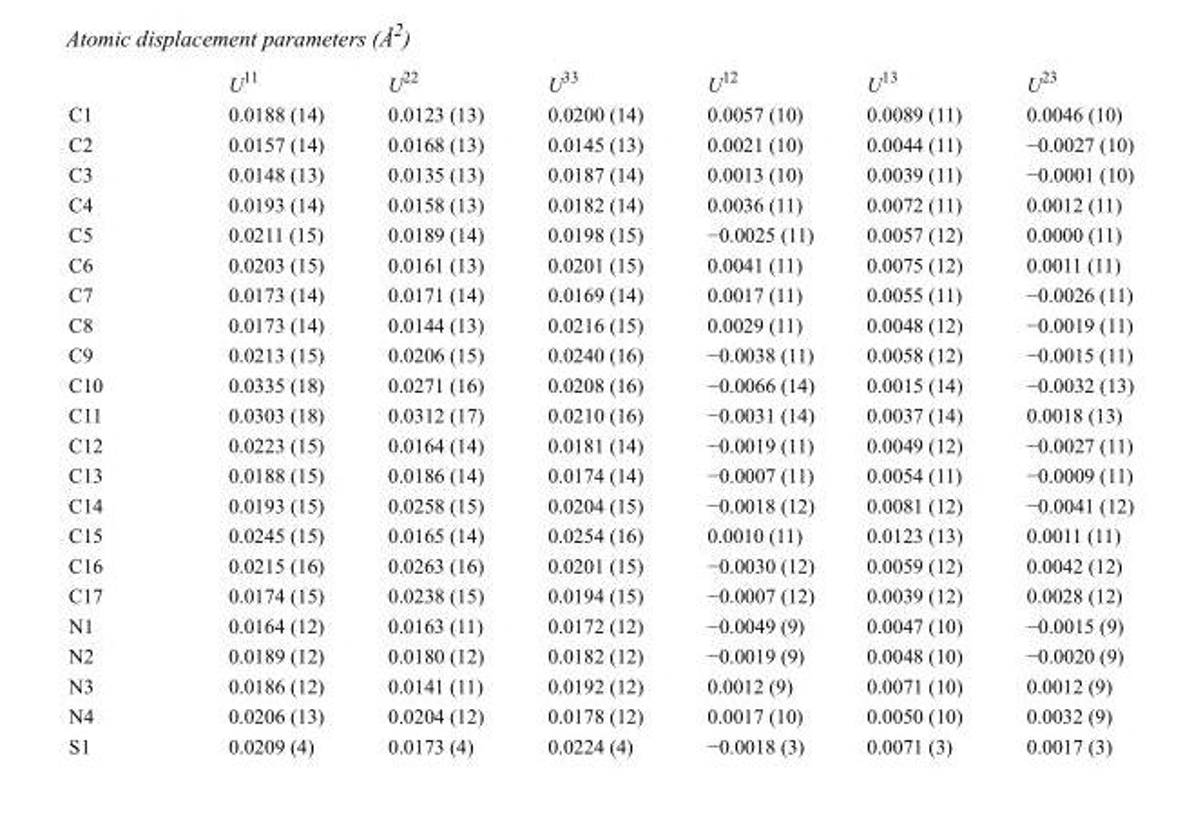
<table><thead><tr><td></td><td>U<sup>11</sup></td><td>U<sup>22</sup></td><td>U<sup>33</sup></td><td>U<sup>12</sup></td><td>U<sup>13</sup></td><td>U<sup>23</sup></td></tr></thead><tbody><tr><td>C1</td><td>0.0188 (14)</td><td>0.0123 (13)</td><td>0.0200 (14)</td><td>0.0057 (10)</td><td>0.0089 (11)</td><td>0.0046 (10)</td></tr><tr><td>C2</td><td>0.0157 (14)</td><td>0.0168 (13)</td><td>0.0145 (13)</td><td>0.0021 (10)</td><td>0.0044 (11)</td><td>−0.0027 (10)</td></tr><tr><td>C3</td><td>0.0148 (13)</td><td>0.0135 (13)</td><td>0.0187 (14)</td><td>0.0013 (10)</td><td>0.0039 (11)</td><td>−0.0001 (10)</td></tr><tr><td>C4</td><td>0.0193 (14)</td><td>0.0158 (13)</td><td>0.0182 (14)</td><td>0.0036 (11)</td><td>0.0072 (11)</td><td>0.0012 (11)</td></tr><tr><td>C5</td><td>0.0211 (15)</td><td>0.0189 (14)</td><td>0.0198 (15)</td><td>−0.0025 (11)</td><td>0.0057 (12)</td><td>0.0000 (11)</td></tr><tr><td>C6</td><td>0.0203 (15)</td><td>0.0161 (13)</td><td>0.0201 (15)</td><td>0.0041 (11)</td><td>0.0075 (12)</td><td>0.0011 (11)</td></tr><tr><td>C7</td><td>0.0173 (14)</td><td>0.0171 (14)</td><td>0.0169 (14)</td><td>0.0017 (11)</td><td>0.0055 (11)</td><td>−0.0026 (11)</td></tr><tr><td>C8</td><td>0.0173 (14)</td><td>0.0144 (13)</td><td>0.0216 (15)</td><td>0.0029 (11)</td><td>0.0048 (12)</td><td>−0.0019 (11)</td></tr><tr><td>C9</td><td>0.0213 (15)</td><td>0.0206 (15)</td><td>0.0240 (16)</td><td>−0.0038 (11)</td><td>0.0058 (12)</td><td>−0.0015 (11)</td></tr><tr><td>C10</td><td>0.0335 (18)</td><td>0.0271 (16)</td><td>0.0208 (16)</td><td>−0.0066 (14)</td><td>0.0015 (14)</td><td>−0.0032 (13)</td></tr><tr><td>C11</td><td>0.0303 (18)</td><td>0.0312 (17)</td><td>0.0210 (16)</td><td>−0.0031 (14)</td><td>0.0037 (14)</td><td>0.0018 (13)</td></tr><tr><td>C12</td><td>0.0223 (15)</td><td>0.0164 (14)</td><td>0.0181 (14)</td><td>−0.0019 (11)</td><td>0.0049 (12)</td><td>−0.0027 (11)</td></tr><tr><td>C13</td><td>0.0188 (15)</td><td>0.0186 (14)</td><td>0.0174 (14)</td><td>−0.0007 (11)</td><td>0.0054 (11)</td><td>−0.0009 (11)</td></tr><tr><td>C14</td><td>0.0193 (15)</td><td>0.0258 (15)</td><td>0.0204 (15)</td><td>−0.0018 (12)</td><td>0.0081 (12)</td><td>−0.0041 (12)</td></tr><tr><td>C15</td><td>0.0245 (15)</td><td>0.0165 (14)</td><td>0.0254 (16)</td><td>0.0010 (11)</td><td>0.0123 (13)</td><td>0.0011 (11)</td></tr><tr><td>C16</td><td>0.0215 (16)</td><td>0.0263 (16)</td><td>0.0201 (15)</td><td>−0.0030 (12)</td><td>0.0059 (12)</td><td>0.0042 (12)</td></tr><tr><td>C17</td><td>0.0174 (15)</td><td>0.0238 (15)</td><td>0.0194 (15)</td><td>−0.0007 (12)</td><td>0.0039 (12)</td><td>0.0028 (12)</td></tr><tr><td>N1</td><td>0.0164 (12)</td><td>0.0163 (11)</td><td>0.0172 (12)</td><td>−0.0049 (9)</td><td>0.0047 (10)</td><td>−0.0015 (9)</td></tr><tr><td>N2</td><td>0.0189 (12)</td><td>0.0180 (12)</td><td>0.0182 (12)</td><td>−0.0019 (9)</td><td>0.0048 (10)</td><td>−0.0020 (9)</td></tr><tr><td>N3</td><td>0.0186 (12)</td><td>0.0141 (11)</td><td>0.0192 (12)</td><td>0.0012 (9)</td><td>0.0071 (10)</td><td>0.0012 (9)</td></tr><tr><td>N4</td><td>0.0206 (13)</td><td>0.0204 (12)</td><td>0.0178 (12)</td><td>0.0017 (10)</td><td>0.0050 (10)</td><td>0.0032 (9)</td></tr><tr><td>S1</td><td>0.0209 (4)</td><td>0.0173 (4)</td><td>0.0224 (4)</td><td>−0.0018 (3)</td><td>0.0071 (3)</td><td>0.0017 (3)</td></tr></tbody></table>